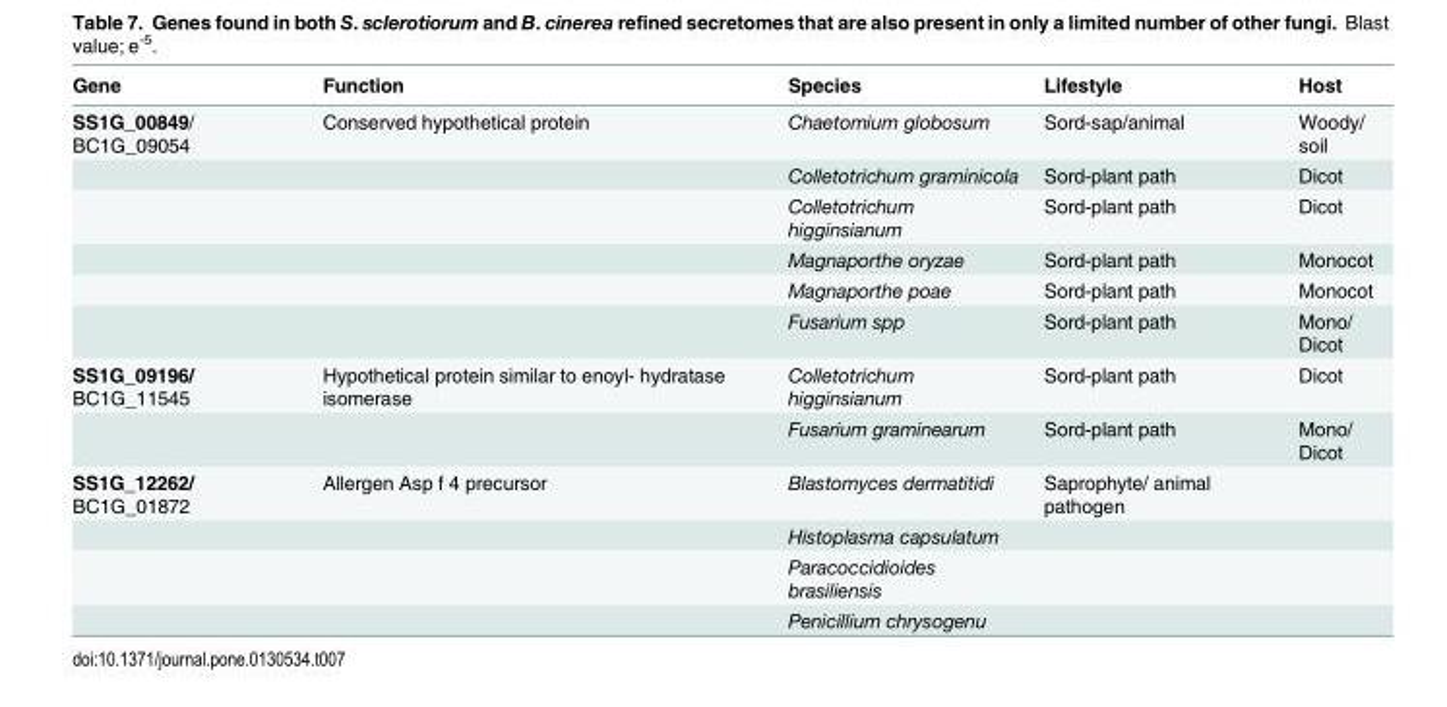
<table><thead><tr><td>Gene</td><td>Function</td><td>Species</td><td>Lifestyle</td><td>Host</td></tr></thead><tbody><tr><td rowspan="6">SS1G_00849/ BC1G_09054</td><td>Conserved hypothetical protein</td><td>Chaetomium globosum</td><td>Sord-sap/animal</td><td>Woody/ soil</td></tr><tr><td></td><td>Colletotrichum graminicola</td><td>Sord-plant path</td><td>Dicot</td></tr><tr><td></td><td>Colletotrichum higginsianum</td><td>Sord-plant path</td><td>Dicot</td></tr><tr><td></td><td>Magnaporthe oryzae</td><td>Sord-plant path</td><td>Monocot</td></tr><tr><td></td><td>Magnaporthe poae</td><td>Sord-plant path</td><td>Monocot</td></tr><tr><td></td><td>Fusarium spp</td><td>Sord-plant path</td><td>Mono/ Dicot</td></tr><tr><td rowspan="2">SS1G_09196/ BC1G_11545</td><td>Hypothetical protein similar to enoyl- hydratase isomerase</td><td>Colletotrichum higginsianum</td><td>Sord-plant path</td><td>Dicot</td></tr><tr><td></td><td>Fusarium graminearum</td><td>Sord-plant path</td><td>Mono/ Dicot</td></tr><tr><td rowspan="4">SS1G_12262/ BC1G_01872</td><td>Allergen Asp f 4 precursor</td><td>Blastomyces dermatitidi</td><td>Saprophyte/ animal pathogen</td><td></td></tr><tr><td></td><td>Histoplasma capsulatum</td><td></td><td></td></tr><tr><td></td><td>Paracoccidioides brasiliensis</td><td></td><td></td></tr><tr><td></td><td>Penicillium chrysogenu</td><td></td><td></td></tr></tbody></table>